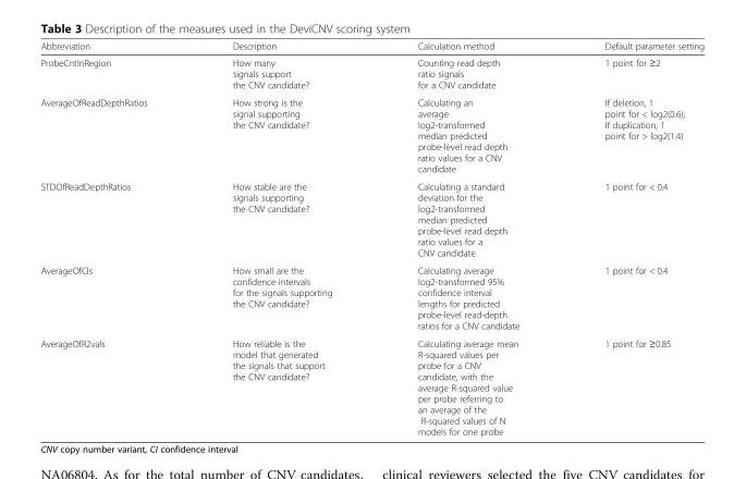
<table><thead><tr><td>Abbreviation</td><td>Description</td><td>Calculation method</td><td>Default parameter setting</td></tr></thead><tbody><tr><td>ProbeCntInRegion</td><td>How many signals support the CNV candidate?</td><td>Counting read depth ratio signals for a CNV candidate</td><td>1 point for ≥2</td></tr><tr><td>AverageOfReadDepthRatios</td><td>How strong is the signal supporting the CNV candidate?</td><td>Calculating an average log2-transformed median predicted probe-level read depth ratio values for a CNV candidate</td><td>If deletion, 1 point for &lt; log2(0.6); If duplication, 1 point for &gt; log2(1.4)</td></tr><tr><td>STDOfReadDepthRatios</td><td>How stable are the signals supporting the CNV candidate?</td><td>Calculating a standard deviation for the log2-transformed median predicted probe-level read depth ratio values for a CNV candidate</td><td>1 point for &lt; 0.4</td></tr><tr><td>AverageOfCIs</td><td>How small are the confidence intervals for the signals supporting the CNV candidate?</td><td>Calculating average log2-transformed 95% confidence interval lengths for predicted probe-level read-depth ratios for a CNV candidate</td><td>1 point for &lt; 0.4</td></tr><tr><td>AverageOfR2vals</td><td>How reliable is the model that generated the signals that support the CNV candidate?</td><td>Calculating average mean R-squared values per probe for a CNV candidate, with the average R-squared value per probe referring to an average of the R-squared values of N models for one probe</td><td>1 point for ≥0.85</td></tr></tbody></table>